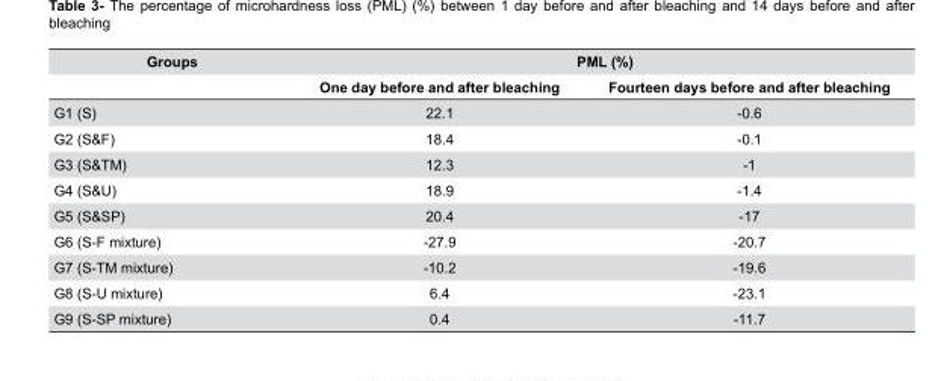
<table><thead><tr><td rowspan="2">Groups</td><td colspan="2">PML (%)</td></tr><tr><td>One day before and after bleaching</td><td>Fourteen days before and after bleaching</td></tr></thead><tbody><tr><td>G1 (S)</td><td>22.1</td><td>-0.6</td></tr><tr><td>G2 (S&amp;F)</td><td>18.4</td><td>-0.1</td></tr><tr><td>G3 (S&amp;TM)</td><td>12.3</td><td>-1</td></tr><tr><td>G4 (S&amp;U)</td><td>18.9</td><td>-1.4</td></tr><tr><td>G5 (S&amp;SP)</td><td>20.4</td><td>-17</td></tr><tr><td>G6 (S-F mixture)</td><td>-27.9</td><td>-20.7</td></tr><tr><td>G7 (S-TM mixture)</td><td>-10.2</td><td>-19.6</td></tr><tr><td>G8 (S-U mixture)</td><td>6.4</td><td>-23.1</td></tr><tr><td>G9 (S-SP mixture)</td><td>0.4</td><td>-11.7</td></tr></tbody></table>